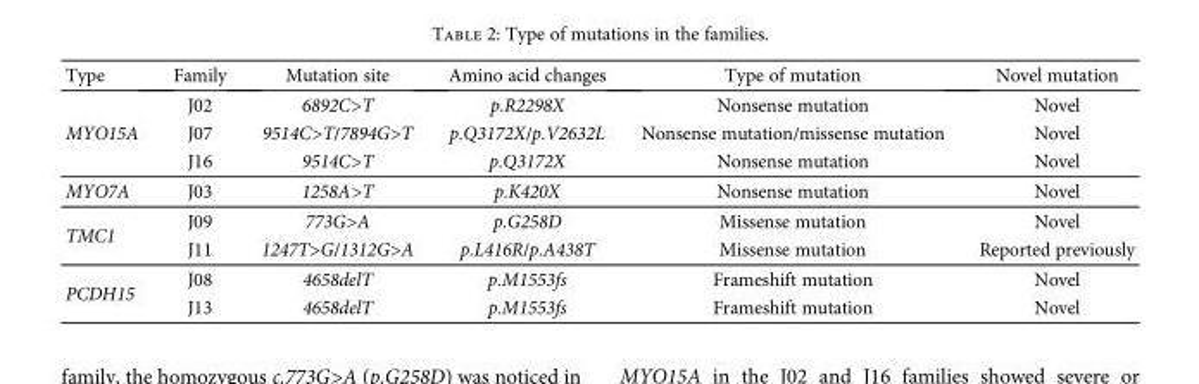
<table><thead><tr><td>Type</td><td>Family</td><td>Mutation site</td><td>Amino acid changes</td><td>Type of mutation</td><td>Novel mutation</td></tr></thead><tbody><tr><td rowspan="3">MYO15A</td><td>J02</td><td>6892C&gt;T</td><td>p.R2298X</td><td>Nonsense mutation</td><td>Novel</td></tr><tr><td>J07</td><td>9514C&gt;T/7894G&gt;T</td><td>p.Q3172X/p.V2632L</td><td>Nonsense mutation/missense mutation</td><td>Novel</td></tr><tr><td>J16</td><td>9514C&gt;T</td><td>p.Q3172X</td><td>Nonsense mutation</td><td>Novel</td></tr><tr><td>MYO7A</td><td>J03</td><td>1258A&gt;T</td><td>p.K420X</td><td>Nonsense mutation</td><td>Novel</td></tr><tr><td rowspan="2">TMC1</td><td>J09</td><td>773G&gt;A</td><td>p.G258D</td><td>Missense mutation</td><td>Novel</td></tr><tr><td>J11</td><td>1247T&gt;G/1312G&gt;A</td><td>p.L416R/p.A438T</td><td>Missense mutation</td><td>Reported previously</td></tr><tr><td rowspan="2">PCDH15</td><td>J08</td><td>4658delT</td><td>p.M1553fs</td><td>Frameshift mutation</td><td>Novel</td></tr><tr><td>J13</td><td>4658delT</td><td>p.M1553fs</td><td>Frameshift mutation</td><td>Novel</td></tr></tbody></table>